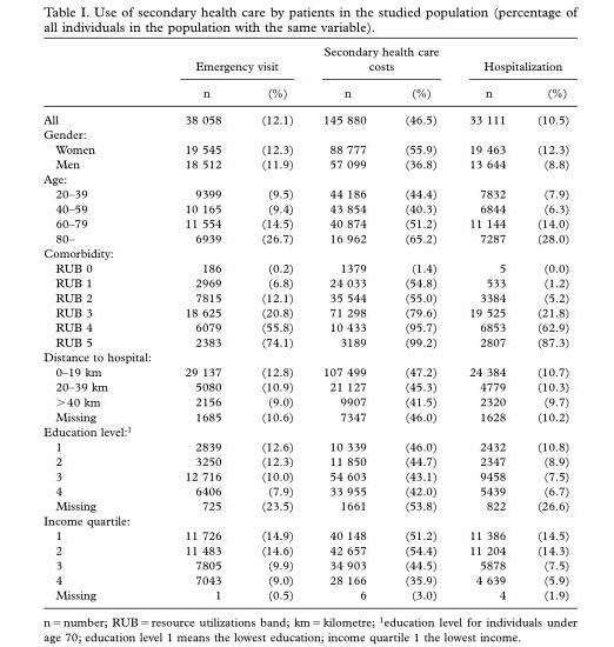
<table><thead><tr><td rowspan="2"></td><td colspan="2">Emergency visit</td><td colspan="2">Secondary health care costs</td><td colspan="2">Hospitalization</td></tr><tr><td>n</td><td>(%)</td><td>n</td><td>(%)</td><td>n</td><td>(%)</td></tr></thead><tbody><tr><td>All</td><td>38 058</td><td>(12.1)</td><td>145 880</td><td>(46.5)</td><td>33 111</td><td>(10.5)</td></tr><tr><td colspan="7">Gender:</td></tr><tr><td>Women</td><td>19 545</td><td>(12.3)</td><td>88 777</td><td>(55.9)</td><td>19 463</td><td>(12.3)</td></tr><tr><td>Men</td><td>18 512</td><td>(11.9)</td><td>57 099</td><td>(36.8)</td><td>13 644</td><td>(8.8)</td></tr><tr><td colspan="7">Age:</td></tr><tr><td>20 – 39</td><td>9399</td><td>(9.5)</td><td>44 186</td><td>(44.4)</td><td>7832</td><td>(7.9)</td></tr><tr><td>40 – 59</td><td>10 165</td><td>(9.4)</td><td>43 854</td><td>(40.3)</td><td>6844</td><td>(6.3)</td></tr><tr><td>60 – 79</td><td>11 554</td><td>(14.5)</td><td>40 874</td><td>(51.2)</td><td>11 144</td><td>(14.0)</td></tr><tr><td>80 –</td><td>6939</td><td>(26.7)</td><td>16 962</td><td>(65.2)</td><td>7287</td><td>(28.0)</td></tr><tr><td colspan="7">Comorbidity:</td></tr><tr><td>RUB 0</td><td>186</td><td>(0.2)</td><td>1379</td><td>(1.4)</td><td>5</td><td>(0.0)</td></tr><tr><td>RUB 1</td><td>2969</td><td>(6.8)</td><td>24 033</td><td>(54.8)</td><td>533</td><td>(1.2)</td></tr><tr><td>RUB 2</td><td>7815</td><td>(12.1)</td><td>35 544</td><td>(55.0)</td><td>3384</td><td>(5.2)</td></tr><tr><td>RUB 3</td><td>18 625</td><td>(20.8)</td><td>71 298</td><td>(79.6)</td><td>19 525</td><td>(21.8)</td></tr><tr><td>RUB 4</td><td>6079</td><td>(55.8)</td><td>10 433</td><td>(95.7)</td><td>6853</td><td>(62.9)</td></tr><tr><td>RUB 5</td><td>2383</td><td>(74.1)</td><td>3189</td><td>(99.2)</td><td>2807</td><td>(87.3)</td></tr><tr><td colspan="7">Distance to hospital:</td></tr><tr><td>0 – 19 km</td><td>29 137</td><td>(12.8)</td><td>107 499</td><td>(47.2)</td><td>24 384</td><td>(10.7)</td></tr><tr><td>20 – 39 km</td><td>5080</td><td>(10.9)</td><td>21 127</td><td>(45.3)</td><td>4779</td><td>(10.3)</td></tr><tr><td>&gt; 40 km</td><td>2156</td><td>(9.0)</td><td>9907</td><td>(41.5)</td><td>2320</td><td>(9.7)</td></tr><tr><td>Missing</td><td>1685</td><td>(10.6)</td><td>7347</td><td>(46.0)</td><td>1628</td><td>(10.2)</td></tr><tr><td colspan="7">Education level: <sup>1</sup></td></tr><tr><td>1</td><td>2839</td><td>(12.6)</td><td>10 339</td><td>(46.0)</td><td>2432</td><td>(10.8)</td></tr><tr><td>2</td><td>3250</td><td>(12.3)</td><td>11 850</td><td>(44.7)</td><td>2347</td><td>(8.9)</td></tr><tr><td>3</td><td>12 716</td><td>(10.0)</td><td>54 603</td><td>(43.1)</td><td>9458</td><td>(7.5)</td></tr><tr><td>4</td><td>6406</td><td>(7.9)</td><td>33 955</td><td>(42.0)</td><td>5439</td><td>(6.7)</td></tr><tr><td>Missing</td><td>725</td><td>(23.5)</td><td>1661</td><td>(53.8)</td><td>822</td><td>(26.6)</td></tr><tr><td colspan="7">Income quartile:</td></tr><tr><td>1</td><td>11 726</td><td>(14.9)</td><td>40 148</td><td>(51.2)</td><td>11 386</td><td>(14.5)</td></tr><tr><td>2</td><td>11 483</td><td>(14.6)</td><td>42 657</td><td>(54.4)</td><td>11 204</td><td>(14.3)</td></tr><tr><td>3</td><td>7805</td><td>(9.9)</td><td>34 903</td><td>(44.5)</td><td>5878</td><td>(7.5)</td></tr><tr><td>4</td><td>7043</td><td>(9.0)</td><td>28 166</td><td>(35.9)</td><td>4 639</td><td>(5.9)</td></tr><tr><td>Missing</td><td>1</td><td>(0.5)</td><td>6</td><td>(3.0)</td><td>4</td><td>(1.9)</td></tr></tbody></table>